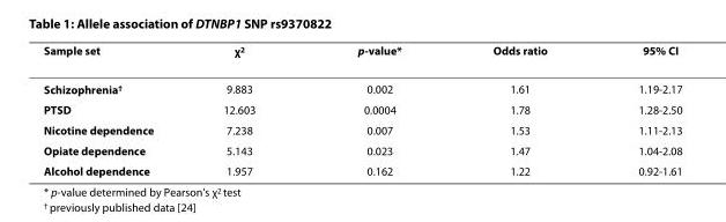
<table><thead><tr><td>Sample set</td><td>χ<sup>2</sup></td><td>p-value*</td><td>Odds ratio</td><td>95% CI</td></tr></thead><tbody><tr><td>Schizophrenia<sup>†</sup></td><td>9.883</td><td>0.002</td><td>1.61</td><td>1.19-2.17</td></tr><tr><td>PTSD</td><td>12.603</td><td>0.0004</td><td>1.78</td><td>1.28-2.50</td></tr><tr><td>Nicotine dependence</td><td>7.238</td><td>0.007</td><td>1.53</td><td>1.11-2.13</td></tr><tr><td>Opiate dependence</td><td>5.143</td><td>0.023</td><td>1.47</td><td>1.04-2.08</td></tr><tr><td>Alcohol dependence</td><td>1.957</td><td>0.162</td><td>1.22</td><td>0.92-1.61</td></tr></tbody></table>